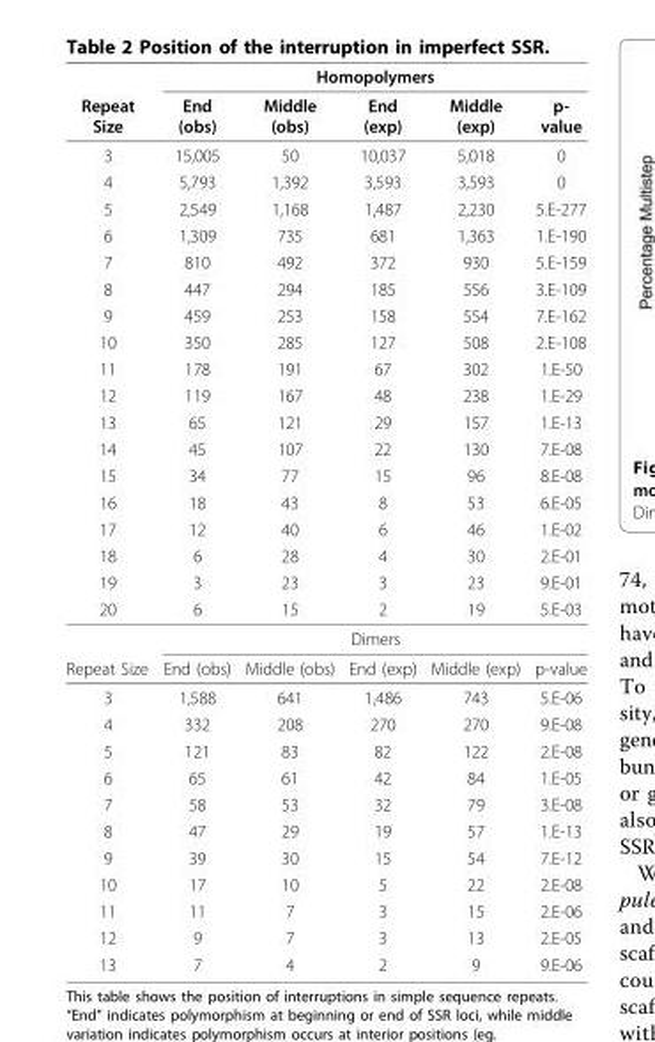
<table><thead><tr><td rowspan="2">Repeat Size</td><td colspan="5">Homopolymers</td></tr><tr><td>End (obs)</td><td>Middle (obs)</td><td>End (exp)</td><td>Middle (exp)</td><td>p- value</td></tr></thead><tbody><tr><td>3</td><td>15,005</td><td>50</td><td>10,037</td><td>5,018</td><td>0</td></tr><tr><td>4</td><td>5,793</td><td>1,392</td><td>3,593</td><td>3,593</td><td>0</td></tr><tr><td>5</td><td>2,549</td><td>1,168</td><td>1,487</td><td>2,230</td><td>5.E-277</td></tr><tr><td>6</td><td>1,309</td><td>735</td><td>681</td><td>1,363</td><td>1.E-190</td></tr><tr><td>7</td><td>810</td><td>492</td><td>372</td><td>930</td><td>5.E-159</td></tr><tr><td>8</td><td>447</td><td>294</td><td>185</td><td>556</td><td>3.E-109</td></tr><tr><td>9</td><td>459</td><td>253</td><td>158</td><td>554</td><td>7.E-162</td></tr><tr><td>10</td><td>350</td><td>285</td><td>127</td><td>508</td><td>2.E-108</td></tr><tr><td>11</td><td>178</td><td>191</td><td>67</td><td>302</td><td>1.E-50</td></tr><tr><td>12</td><td>119</td><td>167</td><td>48</td><td>238</td><td>1.E-29</td></tr><tr><td>13</td><td>65</td><td>121</td><td>29</td><td>157</td><td>1.E-13</td></tr><tr><td>14</td><td>45</td><td>107</td><td>22</td><td>130</td><td>7.E-08</td></tr><tr><td>15</td><td>34</td><td>77</td><td>15</td><td>96</td><td>8.E-08</td></tr><tr><td>16</td><td>18</td><td>43</td><td>8</td><td>53</td><td>6.E-05</td></tr><tr><td>17</td><td>12</td><td>40</td><td>6</td><td>46</td><td>1.E-02</td></tr><tr><td>18</td><td>6</td><td>28</td><td>4</td><td>30</td><td>2.E-01</td></tr><tr><td>19</td><td>3</td><td>23</td><td>3</td><td>23</td><td>9.E-01</td></tr><tr><td rowspan="2">20</td><td>6</td><td>15</td><td>2</td><td>19</td><td>5.E-03</td></tr><tr><td colspan="5">Dimers</td></tr><tr><td>Repeat Size</td><td>End (obs)</td><td>Middle (obs)</td><td>End (exp)</td><td>Middle (exp)</td><td>p-value</td></tr><tr><td>3</td><td>1,588</td><td>641</td><td>1,486</td><td>743</td><td>5.E-06</td></tr><tr><td>4</td><td>332</td><td>208</td><td>270</td><td>270</td><td>9.E-08</td></tr><tr><td>5</td><td>121</td><td>83</td><td>82</td><td>122</td><td>2.E-08</td></tr><tr><td>6</td><td>65</td><td>61</td><td>42</td><td>84</td><td>1.E-05</td></tr><tr><td>7</td><td>58</td><td>53</td><td>32</td><td>79</td><td>3.E-08</td></tr><tr><td>8</td><td>47</td><td>29</td><td>19</td><td>57</td><td>1.E-13</td></tr><tr><td>9</td><td>39</td><td>30</td><td>15</td><td>54</td><td>7.E-12</td></tr><tr><td>10</td><td>17</td><td>10</td><td>5</td><td>22</td><td>2.E-08</td></tr><tr><td>11</td><td>11</td><td>7</td><td>3</td><td>15</td><td>2.E-06</td></tr><tr><td>12</td><td>9</td><td>7</td><td>3</td><td>13</td><td>2.E-05</td></tr><tr><td>13</td><td>7</td><td>4</td><td>2</td><td>9</td><td>9.E-06</td></tr></tbody></table>